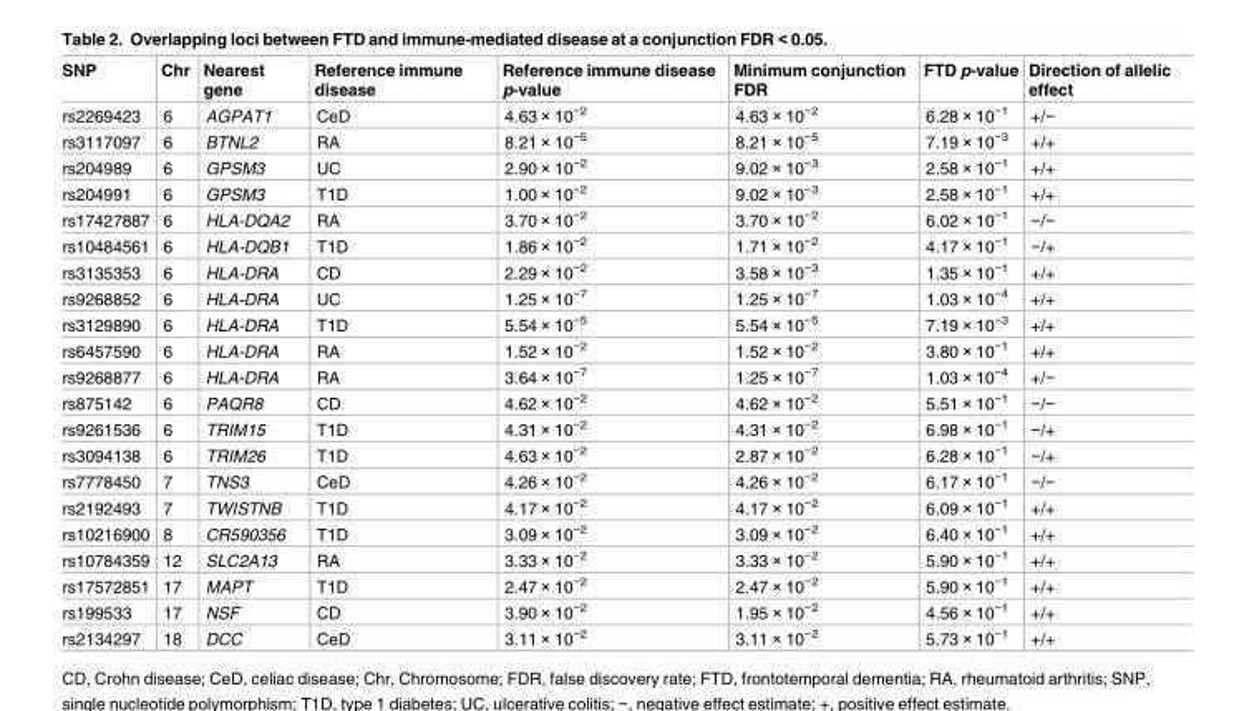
<table><thead><tr><td>SNP</td><td>Chr</td><td>Nearest gene</td><td>Reference immune disease</td><td>Reference immune disease p-value</td><td>Minimum conjunction FDR</td><td>FTD p-value</td><td>Direction of allelic effect</td></tr></thead><tbody><tr><td>rs2269423</td><td>6</td><td>AGPAT1</td><td>CeD</td><td>4.63 × 10<sup>−2</sup></td><td>4.63 × 10<sup>−2</sup></td><td>6.28 × 10<sup>−1</sup></td><td>+/−</td></tr><tr><td>rs3117097</td><td>6</td><td>BTNL2</td><td>RA</td><td>8.21 × 10<sup>−5</sup></td><td>8.21 × 10<sup>−5</sup></td><td>7.19 × 10<sup>−3</sup></td><td>+/+</td></tr><tr><td>rs204989</td><td>6</td><td>GPSM3</td><td>UC</td><td>2.90 × 10<sup>−2</sup></td><td>9.02 × 10<sup>−3</sup></td><td>2.58 × 10<sup>−1</sup></td><td>+/+</td></tr><tr><td>rs204991</td><td>6</td><td>GPSM3</td><td>T1D</td><td>1.00 × 10<sup>−2</sup></td><td>9.02 × 10<sup>−3</sup></td><td>2.58 × 10<sup>−1</sup></td><td>+/+</td></tr><tr><td>rs17427887</td><td>6</td><td>HLA-DQA2</td><td>RA</td><td>3.70 × 10<sup>−2</sup></td><td>3.70 × 10<sup>−2</sup></td><td>6.02 × 10<sup>−1</sup></td><td>−/−</td></tr><tr><td>rs10484561</td><td>6</td><td>HLA-DQB1</td><td>T1D</td><td>1.86 × 10<sup>−2</sup></td><td>1.71 × 10<sup>−2</sup></td><td>4.17 × 10<sup>−1</sup></td><td>−/+</td></tr><tr><td>rs3135353</td><td>6</td><td>HLA-DRA</td><td>CD</td><td>2.29 × 10<sup>−2</sup></td><td>3.58 × 10<sup>−3</sup></td><td>1.35 × 10<sup>−1</sup></td><td>+/+</td></tr><tr><td>rs9268852</td><td>6</td><td>HLA-DRA</td><td>UC</td><td>1.25 × 10<sup>−7</sup></td><td>1.25 × 10<sup>−7</sup></td><td>1.03 × 10<sup>−4</sup></td><td>+/+</td></tr><tr><td>rs3129890</td><td>6</td><td>HLA-DRA</td><td>T1D</td><td>5.54 × 10<sup>−5</sup></td><td>5.54 × 10<sup>−5</sup></td><td>7.19 × 10<sup>−3</sup></td><td>+/+</td></tr><tr><td>rs6457590</td><td>6</td><td>HLA-DRA</td><td>RA</td><td>1.52 × 10<sup>−2</sup></td><td>1.52 × 10<sup>−2</sup></td><td>3.80 × 10<sup>−1</sup></td><td>+/+</td></tr><tr><td>rs9268877</td><td>6</td><td>HLA-DRA</td><td>RA</td><td>3.64 × 10<sup>−7</sup></td><td>1.25 × 10<sup>−7</sup></td><td>1.03 × 10<sup>−4</sup></td><td>+/−</td></tr><tr><td>rs875142</td><td>6</td><td>PAQR8</td><td>CD</td><td>4.62 × 10<sup>−2</sup></td><td>4.62 × 10<sup>−2</sup></td><td>5.51 × 10<sup>−1</sup></td><td>−/−</td></tr><tr><td>rs9261536</td><td>6</td><td>TRIM15</td><td>T1D</td><td>4.31 × 10<sup>−2</sup></td><td>4.31 × 10<sup>−2</sup></td><td>6.98 × 10<sup>−1</sup></td><td>−/+</td></tr><tr><td>rs3094138</td><td>6</td><td>TRIM26</td><td>T1D</td><td>4.63 × 10<sup>−2</sup></td><td>2.87 × 10<sup>−2</sup></td><td>6.28 × 10<sup>−1</sup></td><td>−/+</td></tr><tr><td>rs7778450</td><td>7</td><td>TNS3</td><td>CeD</td><td>4.26 × 10<sup>−2</sup></td><td>4.26 × 10<sup>−2</sup></td><td>6.17 × 10<sup>−1</sup></td><td>−/−</td></tr><tr><td>rs2192493</td><td>7</td><td>TWISTNB</td><td>T1D</td><td>4.17 × 10<sup>−2</sup></td><td>4.17 × 10<sup>−2</sup></td><td>6.09 × 10<sup>−1</sup></td><td>+/+</td></tr><tr><td>rs10216900</td><td>8</td><td>CR590356</td><td>T1D</td><td>3.09 × 10<sup>−2</sup></td><td>3.09 × 10<sup>−2</sup></td><td>6.40 × 10<sup>−1</sup></td><td>+/+</td></tr><tr><td>rs10784359</td><td>12</td><td>SLC2A13</td><td>RA</td><td>3.33 × 10<sup>−2</sup></td><td>3.33 × 10<sup>−2</sup></td><td>5.90 × 10<sup>−1</sup></td><td>+/+</td></tr><tr><td>rs17572851</td><td>17</td><td>MAPT</td><td>T1D</td><td>2.47 × 10<sup>−2</sup></td><td>2.47 × 10<sup>−2</sup></td><td>5.90 × 10<sup>−1</sup></td><td>+/+</td></tr><tr><td>rs199533</td><td>17</td><td>NSF</td><td>CD</td><td>3.90 × 10<sup>−2</sup></td><td>1.95 × 10<sup>−2</sup></td><td>4.56 × 10<sup>−1</sup></td><td>+/+</td></tr><tr><td>rs2134297</td><td>18</td><td>DCC</td><td>CeD</td><td>3.11 × 10<sup>−2</sup></td><td>3.11 × 10<sup>−2</sup></td><td>5.73 × 10<sup>−1</sup></td><td>+/+</td></tr></tbody></table>